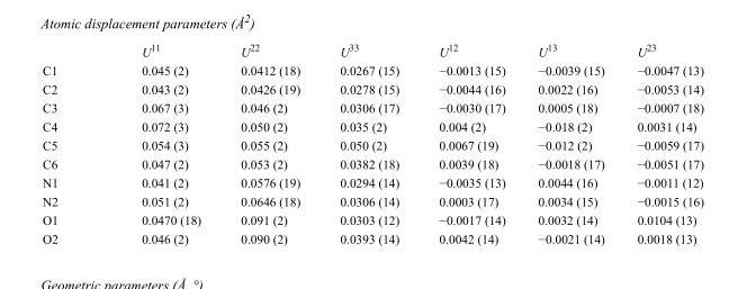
<table><thead><tr><td></td><td>U<sup>11</sup></td><td>U<sup>22</sup></td><td>U<sup>33</sup></td><td>U<sup>12</sup></td><td>U<sup>13</sup></td><td>U<sup>23</sup></td></tr></thead><tbody><tr><td>C1</td><td>0.045 (2)</td><td>0.0412 (18)</td><td>0.0267 (15)</td><td>−0.0013 (15)</td><td>−0.0039 (15)</td><td>−0.0047 (13)</td></tr><tr><td>C2</td><td>0.043 (2)</td><td>0.0426 (19)</td><td>0.0278 (15)</td><td>−0.0044 (16)</td><td>0.0022 (16)</td><td>−0.0053 (14)</td></tr><tr><td>C3</td><td>0.067 (3)</td><td>0.046 (2)</td><td>0.0306 (17)</td><td>−0.0030 (17)</td><td>0.0005 (18)</td><td>−0.0007 (18)</td></tr><tr><td>C4</td><td>0.072 (3)</td><td>0.050 (2)</td><td>0.035 (2)</td><td>0.004 (2)</td><td>−0.018 (2)</td><td>0.0031 (14)</td></tr><tr><td>C5</td><td>0.054 (3)</td><td>0.055 (2)</td><td>0.050 (2)</td><td>0.0067 (19)</td><td>−0.012 (2)</td><td>−0.0059 (17)</td></tr><tr><td>C6</td><td>0.047 (2)</td><td>0.053 (2)</td><td>0.0382 (18)</td><td>0.0039 (18)</td><td>−0.0018 (17)</td><td>−0.0051 (17)</td></tr><tr><td>N1</td><td>0.041 (2)</td><td>0.0576 (19)</td><td>0.0294 (14)</td><td>−0.0035 (13)</td><td>0.0044 (16)</td><td>−0.0011 (12)</td></tr><tr><td>N2</td><td>0.051 (2)</td><td>0.0646 (18)</td><td>0.0306 (14)</td><td>0.0003 (17)</td><td>0.0034 (15)</td><td>−0.0015 (16)</td></tr><tr><td>O1</td><td>0.0470 (18)</td><td>0.091 (2)</td><td>0.0303 (12)</td><td>−0.0017 (14)</td><td>0.0032 (14)</td><td>0.0104 (13)</td></tr><tr><td>O2</td><td>0.046 (2)</td><td>0.090 (2)</td><td>0.0393 (14)</td><td>0.0042 (14)</td><td>−0.0021 (14)</td><td>0.0018 (13)</td></tr></tbody></table>